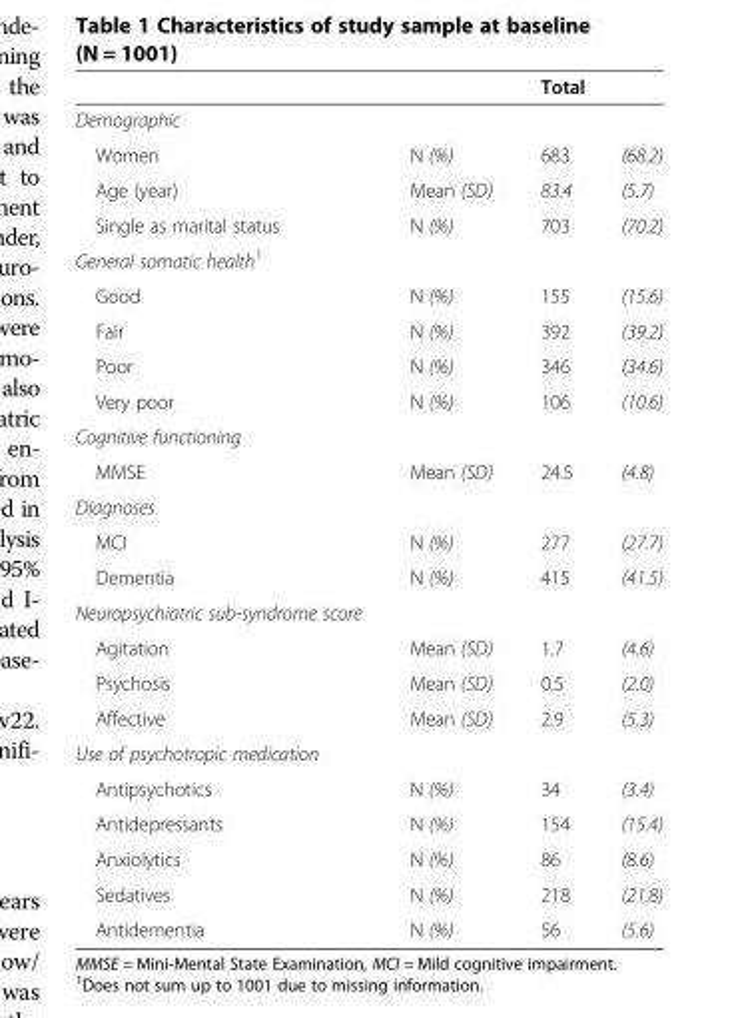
<table><thead><tr><td></td><td></td><td colspan="2">Total</td></tr><tr><td colspan="2">Demographic</td><td></td><td></td></tr></thead><tbody><tr><td>Women</td><td>N (%)</td><td>683</td><td>(68.2)</td></tr><tr><td>Age (year)</td><td>Mean (SD)</td><td>83.4</td><td>(5.7)</td></tr><tr><td>Single as marital status</td><td>N (%)</td><td>703</td><td>(70.2)</td></tr><tr><td colspan="4">General somatic health<sup>1</sup></td></tr><tr><td>Good</td><td>N (%)</td><td>155</td><td>(15.6)</td></tr><tr><td>Fair</td><td>N (%)</td><td>392</td><td>(39.2)</td></tr><tr><td>Poor</td><td>N (%)</td><td>346</td><td>(34.6)</td></tr><tr><td>Very poor</td><td>N (%)</td><td>106</td><td>(10.6)</td></tr><tr><td colspan="4">Cognitive functioning</td></tr><tr><td>MMSE</td><td>Mean (SD)</td><td>24.5</td><td>(4.8)</td></tr><tr><td colspan="4">Diagnoses</td></tr><tr><td>MCI</td><td>N (%)</td><td>277</td><td>(27.7)</td></tr><tr><td>Dementia</td><td>N (%)</td><td>415</td><td>(41.5)</td></tr><tr><td colspan="4">Neuropsychiatric sub-syndrome score</td></tr><tr><td>Agitation</td><td>Mean (SD)</td><td>1.7</td><td>(4.6)</td></tr><tr><td>Psychosis</td><td>Mean (SD)</td><td>0.5</td><td>(2.0)</td></tr><tr><td>Affective</td><td>Mean (SD)</td><td>2.9</td><td>(5.3)</td></tr><tr><td colspan="4">Use of psychotropic medication</td></tr><tr><td>Antipsychotics</td><td>N (%)</td><td>34</td><td>(3.4)</td></tr><tr><td>Antidepressants</td><td>N (%)</td><td>154</td><td>(15.4)</td></tr><tr><td>Anxiolytics</td><td>N (%)</td><td>86</td><td>(8.6)</td></tr><tr><td>Sedatives</td><td>N (%)</td><td>218</td><td>(21.8)</td></tr><tr><td>Antidementia</td><td>N (%)</td><td>56</td><td>(5.6)</td></tr></tbody></table>